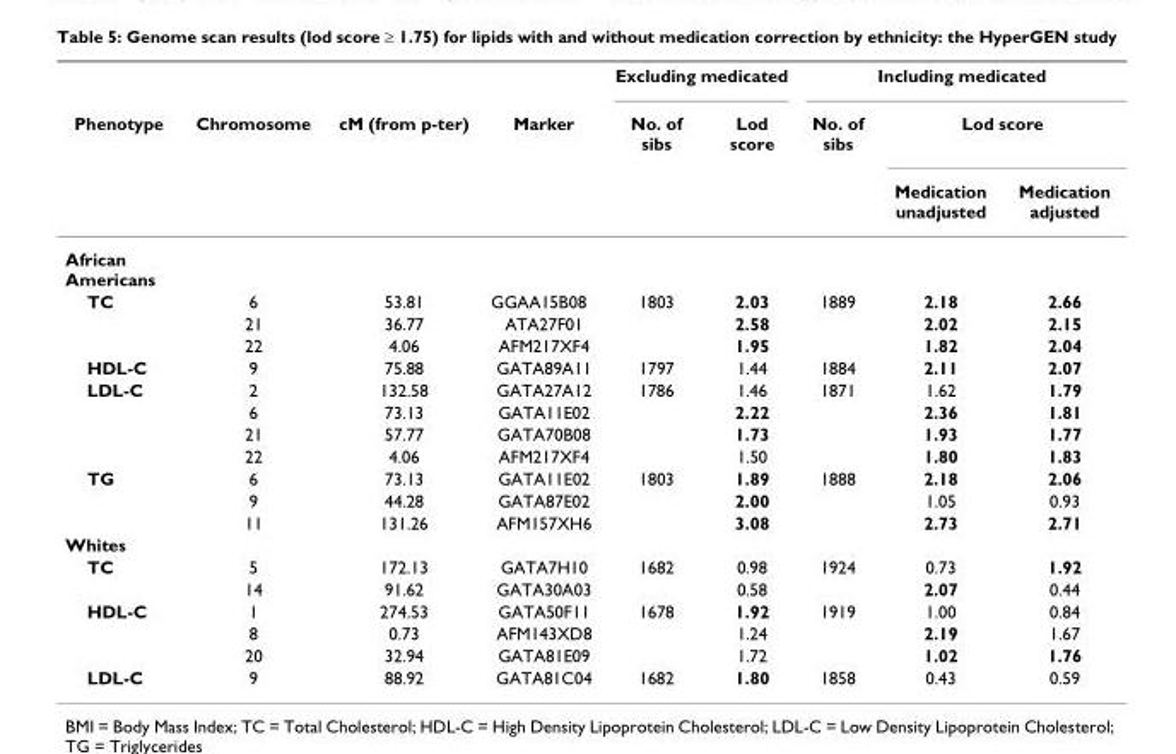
<table><thead><tr><td rowspan="3">Phenotype</td><td rowspan="3">Chromosome</td><td rowspan="3">cM (from p-ter)</td><td rowspan="3">Marker</td><td colspan="2">Excluding medicated</td><td colspan="3">Including medicated</td></tr><tr><td rowspan="2">No. of sibs</td><td rowspan="2">Lod score</td><td rowspan="2">No. of sibs</td><td colspan="2">Lod score</td></tr><tr><td>Medication unadjusted</td><td>Medication adjusted</td></tr></thead><tbody><tr><td colspan="9">African Americans</td></tr><tr><td rowspan="3">TC</td><td>6</td><td>53.81</td><td>GGAA15B08</td><td>1803</td><td>2.03</td><td>1889</td><td>2.18</td><td>2.66</td></tr><tr><td>21</td><td>36.77</td><td>ATA27F01</td><td></td><td>2.58</td><td></td><td>2.02</td><td>2.15</td></tr><tr><td>22</td><td>4.06</td><td>AFM217XF4</td><td></td><td>1.95</td><td></td><td>1.82</td><td>2.04</td></tr><tr><td>HDL-C</td><td>9</td><td>75.88</td><td>GATA89A11</td><td>1797</td><td>1.44</td><td>1884</td><td>2.11</td><td>2.07</td></tr><tr><td rowspan="4">LDL-C</td><td>2</td><td>132.58</td><td>GATA27A12</td><td>1786</td><td>1.46</td><td>1871</td><td>1.62</td><td>1.79</td></tr><tr><td>6</td><td>73.13</td><td>GATA11E02</td><td></td><td>2.22</td><td></td><td>2.36</td><td>1.81</td></tr><tr><td>21</td><td>57.77</td><td>GATA70B08</td><td></td><td>1.73</td><td></td><td>1.93</td><td>1.77</td></tr><tr><td>22</td><td>4.06</td><td>AFM217XF4</td><td></td><td>1.50</td><td></td><td>1.80</td><td>1.83</td></tr><tr><td rowspan="3">TG</td><td>6</td><td>73.13</td><td>GATA11E02</td><td>1803</td><td>1.89</td><td>1888</td><td>2.18</td><td>2.06</td></tr><tr><td>9</td><td>44.28</td><td>GATA87E02</td><td></td><td>2.00</td><td></td><td>1.05</td><td>0.93</td></tr><tr><td>11</td><td>131.26</td><td>AFM157XH6</td><td></td><td>3.08</td><td></td><td>2.73</td><td>2.71</td></tr><tr><td colspan="9">Whites</td></tr><tr><td rowspan="2">TC</td><td>5</td><td>172.13</td><td>GATA7H10</td><td>1682</td><td>0.98</td><td>1924</td><td>0.73</td><td>1.92</td></tr><tr><td>14</td><td>91.62</td><td>GATA30A03</td><td></td><td>0.58</td><td></td><td>2.07</td><td>0.44</td></tr><tr><td rowspan="3">HDL-C</td><td>1</td><td>274.53</td><td>GATA50F11</td><td>1678</td><td>1.92</td><td>1919</td><td>1.00</td><td>0.84</td></tr><tr><td>8</td><td>0.73</td><td>AFM143XD8</td><td></td><td>1.24</td><td></td><td>2.19</td><td>1.67</td></tr><tr><td>20</td><td>32.94</td><td>GATA81E09</td><td></td><td>1.72</td><td></td><td>1.02</td><td>1.76</td></tr><tr><td>LDL-C</td><td>9</td><td>88.92</td><td>GATA81C04</td><td>1682</td><td>1.80</td><td>1858</td><td>0.43</td><td>0.59</td></tr></tbody></table>